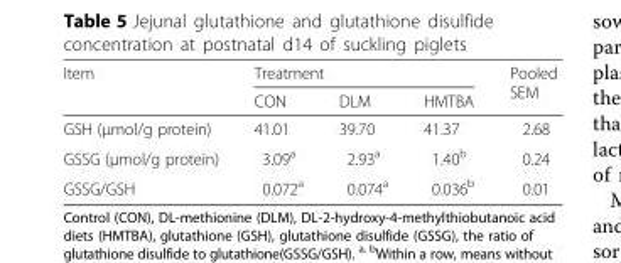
<table><thead><tr><td rowspan="2">Item</td><td colspan="3">Treatment</td><td rowspan="2">Pooled SEM</td></tr><tr><td>CON</td><td>DLM</td><td>HMTBA</td></tr></thead><tbody><tr><td>GSH (μmol/g protein)</td><td>41.01</td><td>39.70</td><td>41.37</td><td>2.68</td></tr><tr><td>GSSG (μmol/g protein)</td><td>3.09<sup>a</sup></td><td>2.93<sup>a</sup></td><td>1.40<sup>b</sup></td><td>0.24</td></tr><tr><td>GSSG/GSH</td><td>0.072<sup>a</sup></td><td>0.074<sup>a</sup></td><td>0.036<sup>b</sup></td><td>0.01</td></tr></tbody></table>